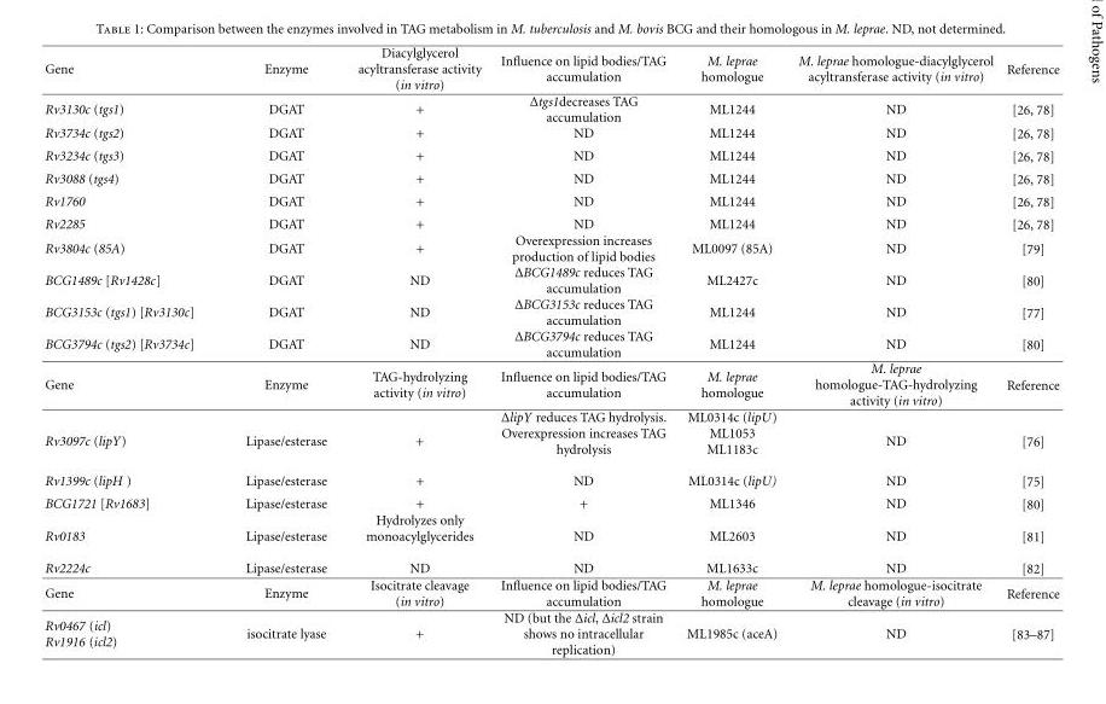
<table><thead><tr><td>Gene</td><td>Enzyme</td><td>Diacylglycerol acyltransferase activity (in vitro)</td><td>Influence on lipid bodies/TAG accumulation</td><td>M. leprae homologue</td><td>M. leprae homologue-diacylglycerol acyltransferase activity (in vitro)</td><td>Reference</td></tr></thead><tbody><tr><td>Rv3130c (tgs1)</td><td>DGAT</td><td>+</td><td>Δtgs1decreases TAG accumulation</td><td>ML1244</td><td>ND</td><td>[26, 78]</td></tr><tr><td>Rv3734c (tgs2)</td><td>DGAT</td><td>+</td><td>ND</td><td>ML1244</td><td>ND</td><td>[26, 78]</td></tr><tr><td>Rv3234c (tgs3)</td><td>DGAT</td><td>+</td><td>ND</td><td>ML1244</td><td>ND</td><td>[26, 78]</td></tr><tr><td>Rv3088 (tgs4)</td><td>DGAT</td><td>+</td><td>ND</td><td>ML1244</td><td>ND</td><td>[26, 78]</td></tr><tr><td>Rv1760</td><td>DGAT</td><td>+</td><td>ND</td><td>ML1244</td><td>ND</td><td>[26, 78]</td></tr><tr><td>Rv2285</td><td>DGAT</td><td>+</td><td>ND</td><td>ML1244</td><td>ND</td><td>[26, 78]</td></tr><tr><td>Rv3804c (85A)</td><td>DGAT</td><td>+</td><td>Overexpression increases production of lipid bodies</td><td>ML0097 (85A)</td><td>ND</td><td>[79]</td></tr><tr><td>BCG1489c [Rv1428c]</td><td>DGAT</td><td>ND</td><td>ΔBCG1489c reduces TAG accumulation</td><td>ML2427c</td><td>ND</td><td>[80]</td></tr><tr><td>BCG3153c (tgs1) [Rv3130c]</td><td>DGAT</td><td>ND</td><td>ΔBCG3153c reduces TAG accumulation</td><td>ML1244</td><td>ND</td><td>[77]</td></tr><tr><td>BCG3794c (tgs2) [Rv3734c]</td><td>DGAT</td><td>ND</td><td>ΔBCG3794c reduces TAG accumulation</td><td>ML1244</td><td>ND</td><td>[80]</td></tr><tr><td>Gene</td><td>Enzyme</td><td>TAG-hydrolyzing activity (in vitro)</td><td>Influence on lipid bodies/TAG accumulation</td><td>M. leprae homologue</td><td>M. leprae homologue-TAG-hydrolyzing activity (in vitro)</td><td>Reference</td></tr><tr><td>Rv3097c (lipY)</td><td>Lipase/esterase</td><td>+</td><td>ΔlipY reduces TAG hydrolysis. Overexpression increases TAG hydrolysis</td><td>ML0314c (lipU) ML1053 ML1183c</td><td>ND</td><td>[76]</td></tr><tr><td>Rv1399c (lipH )</td><td>Lipase/esterase</td><td>+</td><td>ND</td><td>ML0314c (lipU)</td><td>ND</td><td>[75]</td></tr><tr><td>BCG1721 [Rv1683]</td><td>Lipase/esterase</td><td>+</td><td>+</td><td>ML1346</td><td>ND</td><td>[80]</td></tr><tr><td>Rv0183</td><td>Lipase/esterase</td><td>Hydrolyzes only monoacylglycerides</td><td>ND</td><td>ML2603</td><td>ND</td><td>[81]</td></tr><tr><td>Rv2224c</td><td>Lipase/esterase</td><td>ND</td><td>ND</td><td>ML1633c</td><td>ND</td><td>[82]</td></tr><tr><td>Gene</td><td>Enzyme</td><td>Isocitrate cleavage (in vitro)</td><td>Influence on lipid bodies/TAG accumulation</td><td>M. leprae homologue</td><td>M. leprae homologue-isocitrate cleavage (in vitro)</td><td>Reference</td></tr><tr><td>Rv0467 (icl) Rv1916 (icl2)</td><td>isocitrate lyase</td><td>+</td><td>ND (but the Δicl, Δicl2 strain shows no intracellular replication)</td><td>ML1985c (aceA)</td><td>ND</td><td>[83–87]</td></tr></tbody></table>